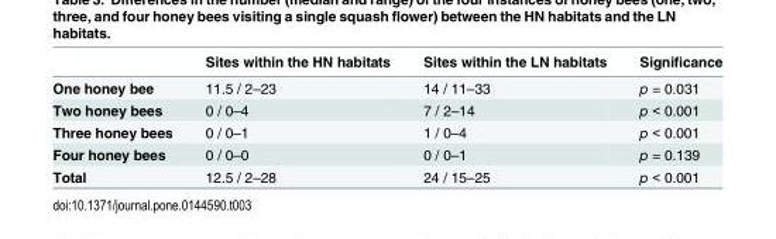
<table><thead><tr><td></td><td>Sites within the HN habitats</td><td>Sites within the LN habitats</td><td>Significance</td></tr></thead><tbody><tr><td>One honey bee</td><td>11.5 / 2–23</td><td>14 / 11–33</td><td>p = 0.031</td></tr><tr><td>Two honey bees</td><td>0 / 0–4</td><td>7 / 2–14</td><td>p &lt; 0.001</td></tr><tr><td>Three honey bees</td><td>0 / 0–1</td><td>1 / 0–4</td><td>p &lt; 0.001</td></tr><tr><td>Four honey bees</td><td>0 / 0–0</td><td>0 / 0–1</td><td>p = 0.139</td></tr><tr><td>Total</td><td>12.5 / 2–28</td><td>24 / 15–25</td><td>p &lt; 0.001</td></tr></tbody></table>